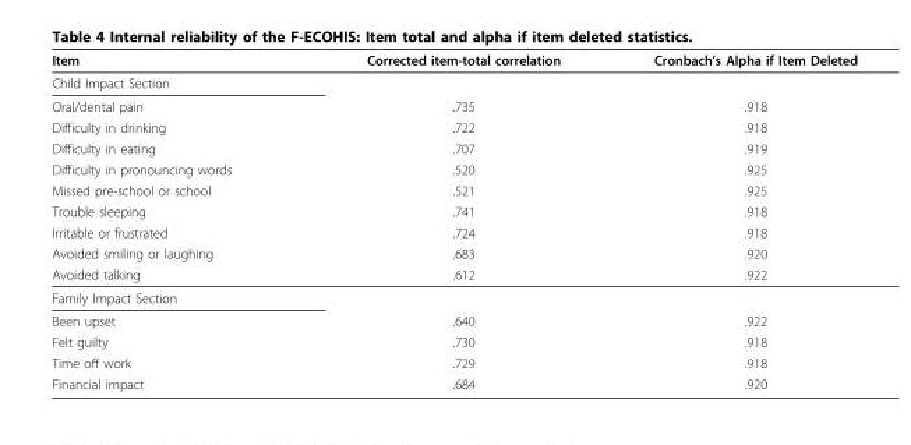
<table><thead><tr><td>Item</td><td>Corrected item-total correlation</td><td>Cronbach’s Alpha if Item Deleted</td></tr></thead><tbody><tr><td colspan="3">Child Impact Section</td></tr><tr><td>Oral/dental pain</td><td>.735</td><td>.918</td></tr><tr><td>Difficulty in drinking</td><td>.722</td><td>.918</td></tr><tr><td>Difficulty in eating</td><td>.707</td><td>.919</td></tr><tr><td>Difficulty in pronouncing words</td><td>.520</td><td>.925</td></tr><tr><td>Missed pre-school or school</td><td>.521</td><td>.925</td></tr><tr><td>Trouble sleeping</td><td>.741</td><td>.918</td></tr><tr><td>Irritable or frustrated</td><td>.724</td><td>.918</td></tr><tr><td>Avoided smiling or laughing</td><td>.683</td><td>.920</td></tr><tr><td>Avoided talking</td><td>.612</td><td>.922</td></tr><tr><td colspan="3">Family Impact Section</td></tr><tr><td>Been upset</td><td>.640</td><td>.922</td></tr><tr><td>Felt guilty</td><td>.730</td><td>.918</td></tr><tr><td>Time off work</td><td>.729</td><td>.918</td></tr><tr><td>Financial impact</td><td>.684</td><td>.920</td></tr></tbody></table>